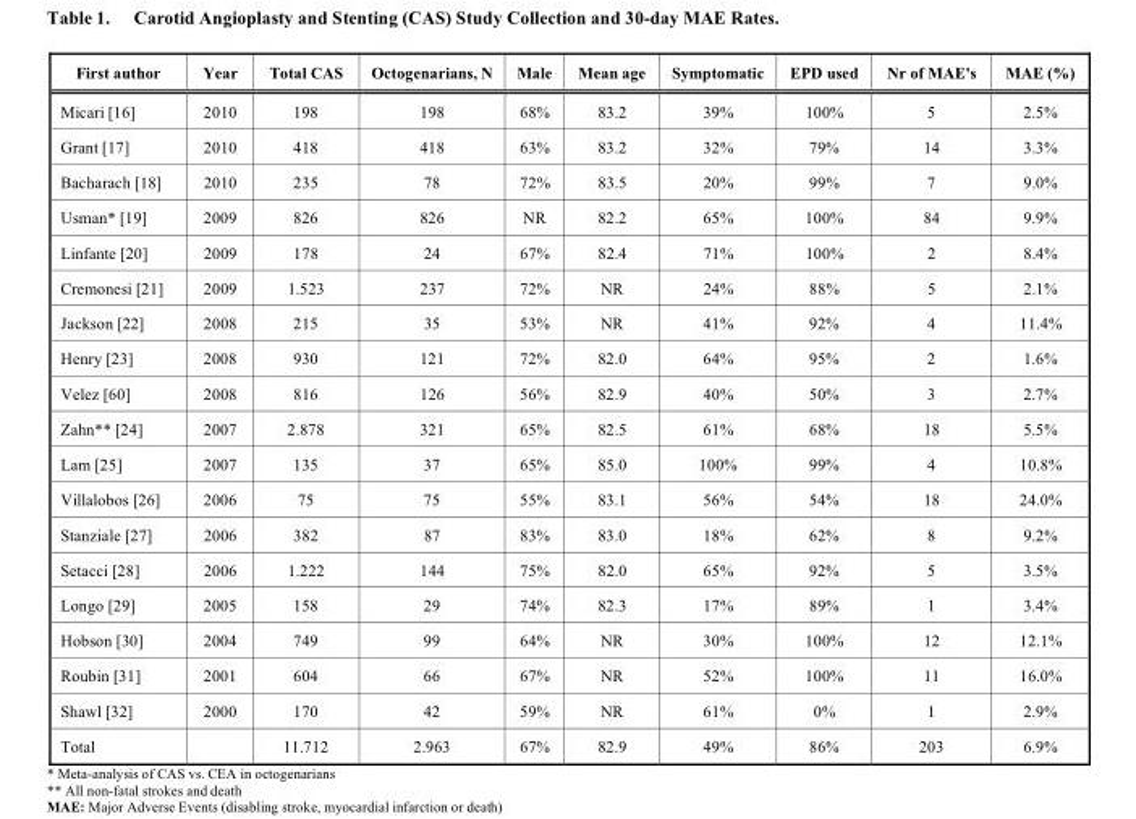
<table><thead><tr><td>First author</td><td>Year</td><td>Total CAS</td><td>Octogenarians, N</td><td>Male</td><td>Mean age</td><td>Symptomatic</td><td>EPD used</td><td>Nr of MAE&#x27;s</td><td>MAE (%)</td></tr></thead><tbody><tr><td>Micari [16]</td><td>2010</td><td>198</td><td>198</td><td>68%</td><td>83.2</td><td>39%</td><td>100%</td><td>5</td><td>2.5%</td></tr><tr><td>Grant [17]</td><td>2010</td><td>418</td><td>418</td><td>63%</td><td>83.2</td><td>32%</td><td>79%</td><td>14</td><td>3.3%</td></tr><tr><td>Bacharach [18]</td><td>2010</td><td>235</td><td>78</td><td>72%</td><td>83.5</td><td>20%</td><td>99%</td><td>7</td><td>9.0%</td></tr><tr><td>Usman* [19]</td><td>2009</td><td>826</td><td>826</td><td>NR</td><td>82.2</td><td>65%</td><td>100%</td><td>84</td><td>9.9%</td></tr><tr><td>Linfante [20]</td><td>2009</td><td>178</td><td>24</td><td>67%</td><td>82.4</td><td>71%</td><td>100%</td><td>2</td><td>8.4%</td></tr><tr><td>Cremonesi [21]</td><td>2009</td><td>1.523</td><td>237</td><td>72%</td><td>NR</td><td>24%</td><td>88%</td><td>5</td><td>2.1%</td></tr><tr><td>Jackson [22]</td><td>2008</td><td>215</td><td>35</td><td>53%</td><td>NR</td><td>41%</td><td>92%</td><td>4</td><td>11.4%</td></tr><tr><td>Henry [23]</td><td>2008</td><td>930</td><td>121</td><td>72%</td><td>82.0</td><td>64%</td><td>95%</td><td>2</td><td>1.6%</td></tr><tr><td>Velez [60]</td><td>2008</td><td>816</td><td>126</td><td>56%</td><td>82.9</td><td>40%</td><td>50%</td><td>3</td><td>2.7%</td></tr><tr><td>Zahn** [24]</td><td>2007</td><td>2.878</td><td>321</td><td>65%</td><td>82.5</td><td>61%</td><td>68%</td><td>18</td><td>5.5%</td></tr><tr><td>Lam [25]</td><td>2007</td><td>135</td><td>37</td><td>65%</td><td>85.0</td><td>100%</td><td>99%</td><td>4</td><td>10.8%</td></tr><tr><td>Villalobos [26]</td><td>2006</td><td>75</td><td>75</td><td>55%</td><td>83.1</td><td>56%</td><td>54%</td><td>18</td><td>24.0%</td></tr><tr><td>Stanziale [27]</td><td>2006</td><td>382</td><td>87</td><td>83%</td><td>83.0</td><td>18%</td><td>62%</td><td>8</td><td>9.2%</td></tr><tr><td>Setacci [28]</td><td>2006</td><td>1.222</td><td>144</td><td>75%</td><td>82.0</td><td>65%</td><td>92%</td><td>5</td><td>3.5%</td></tr><tr><td>Longo [29]</td><td>2005</td><td>158</td><td>29</td><td>74%</td><td>82.3</td><td>17%</td><td>89%</td><td>1</td><td>3.4%</td></tr><tr><td>Hobson [30]</td><td>2004</td><td>749</td><td>99</td><td>64%</td><td>NR</td><td>30%</td><td>100%</td><td>12</td><td>12.1%</td></tr><tr><td>Roubin [31]</td><td>2001</td><td>604</td><td>66</td><td>67%</td><td>NR</td><td>52%</td><td>100%</td><td>11</td><td>16.0%</td></tr><tr><td>Shawl [32]</td><td>2000</td><td>170</td><td>42</td><td>59%</td><td>NR</td><td>61%</td><td>0%</td><td>1</td><td>2.9%</td></tr><tr><td>Total</td><td></td><td>11.712</td><td>2.963</td><td>67%</td><td>82.9</td><td>49%</td><td>86%</td><td>203</td><td>6.9%</td></tr></tbody></table>